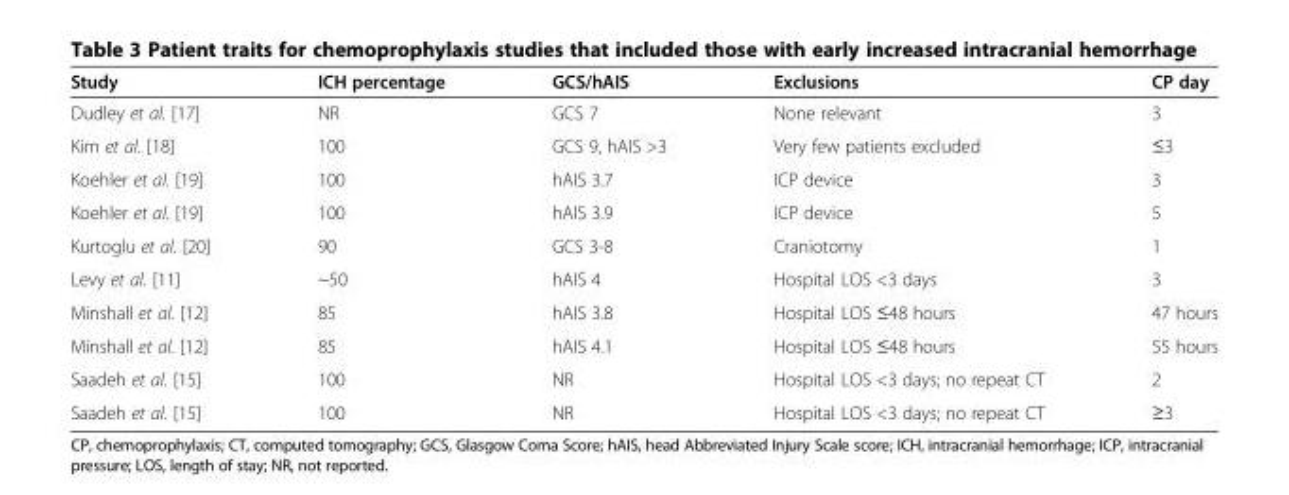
<table><thead><tr><td>Study</td><td>ICH percentage</td><td>GCS/hAIS</td><td>Exclusions</td><td>CP day</td></tr></thead><tbody><tr><td>Dudley et al. [17]</td><td>NR</td><td>GCS 7</td><td>None relevant</td><td>3</td></tr><tr><td>Kim et al. [18]</td><td>100</td><td>GCS 9, hAIS &gt;3</td><td>Very few patients excluded</td><td>≤3</td></tr><tr><td>Koehler et al. [19]</td><td>100</td><td>hAIS 3.7</td><td>ICP device</td><td>3</td></tr><tr><td>Koehler et al. [19]</td><td>100</td><td>hAIS 3.9</td><td>ICP device</td><td>5</td></tr><tr><td>Kurtoglu et al. [20]</td><td>90</td><td>GCS 3-8</td><td>Craniotomy</td><td>1</td></tr><tr><td>Levy et al. [11]</td><td>~50</td><td>hAIS 4</td><td>Hospital LOS &lt;3 days</td><td>3</td></tr><tr><td>Minshall et al. [12]</td><td>85</td><td>hAIS 3.8</td><td>Hospital LOS ≤48 hours</td><td>47 hours</td></tr><tr><td>Minshall et al. [12]</td><td>85</td><td>hAIS 4.1</td><td>Hospital LOS ≤48 hours</td><td>55 hours</td></tr><tr><td>Saadeh et al. [15]</td><td>100</td><td>NR</td><td>Hospital LOS &lt;3 days; no repeat CT</td><td>2</td></tr><tr><td>Saadeh et al. [15]</td><td>100</td><td>NR</td><td>Hospital LOS &lt;3 days; no repeat CT</td><td>≥3</td></tr></tbody></table>